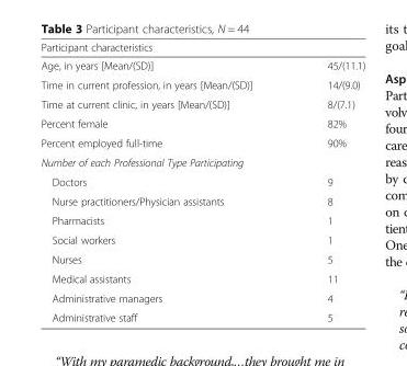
<table><thead><tr><td colspan="2">Participant characteristics</td></tr><tr><td>Age, in years [Mean/(SD)]</td><td>45/(11.1)</td></tr></thead><tbody><tr><td>Time in current profession, in years [Mean/(SD)]</td><td>14/(9.0)</td></tr><tr><td>Time at current clinic, in years [Mean/(SD)]</td><td>8/(7.1)</td></tr><tr><td>Percent female</td><td>82%</td></tr><tr><td>Percent employed full-time</td><td>90%</td></tr><tr><td colspan="2">Number of each Professional Type Participating</td></tr><tr><td>Doctors</td><td>9</td></tr><tr><td>Nurse practitioners/Physician assistants</td><td>8</td></tr><tr><td>Pharmacists</td><td>1</td></tr><tr><td>Social workers</td><td>1</td></tr><tr><td>Nurses</td><td>5</td></tr><tr><td>Medical assistants</td><td>11</td></tr><tr><td>Administrative managers</td><td>4</td></tr><tr><td>Administrative staff</td><td>5</td></tr></tbody></table>